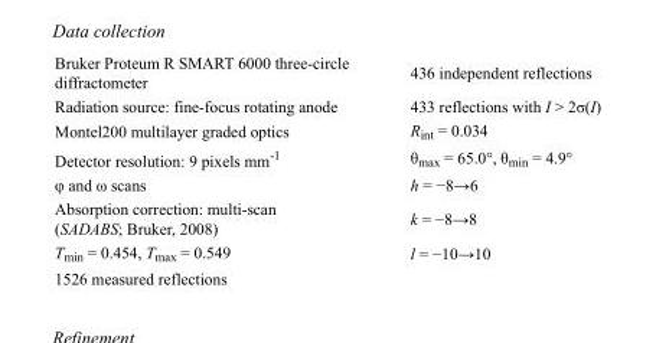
<table><tbody><tr><td>Bruker Proteum R SMART 6000 three-circle diffractometer</td><td>436 independent reflections</td></tr><tr><td>Radiation source: fine-focus rotating anode</td><td>433 reflections with I &gt; 2σ(I)</td></tr><tr><td>Montel200 multilayer graded optics</td><td>R<sub>int</sub> = 0.034</td></tr><tr><td>Detector resolution: 9 pixels mm<sup>-1</sup></td><td>θ<sub>max</sub> = 65.0°, θ<sub>min</sub> = 4.9°</td></tr><tr><td>φ and ω scans</td><td>h = −8→6</td></tr><tr><td>Absorption correction: multi-scan (SADABS; Bruker, 2008)</td><td>k = −8→8</td></tr><tr><td>T<sub>min</sub> = 0.454, T<sub>max</sub> = 0.549</td><td>l = −10→10</td></tr><tr><td>1526 measured reflections</td><td></td></tr></tbody></table>